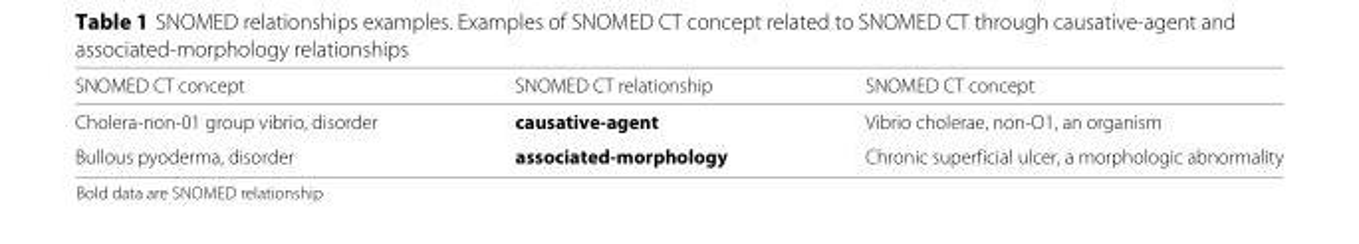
<table><thead><tr><td>SNOMED CT concept</td><td>SNOMED CT relationship</td><td>SNOMED CT concept</td></tr></thead><tbody><tr><td>Cholera-non-01 group vibrio, disorder</td><td>causative-agent</td><td>Vibrio cholerae, non-O1, an organism</td></tr><tr><td>Bullous pyoderma, disorder</td><td>associated-morphology</td><td>Chronic superficial ulcer, a morphologic abnormality</td></tr></tbody></table>